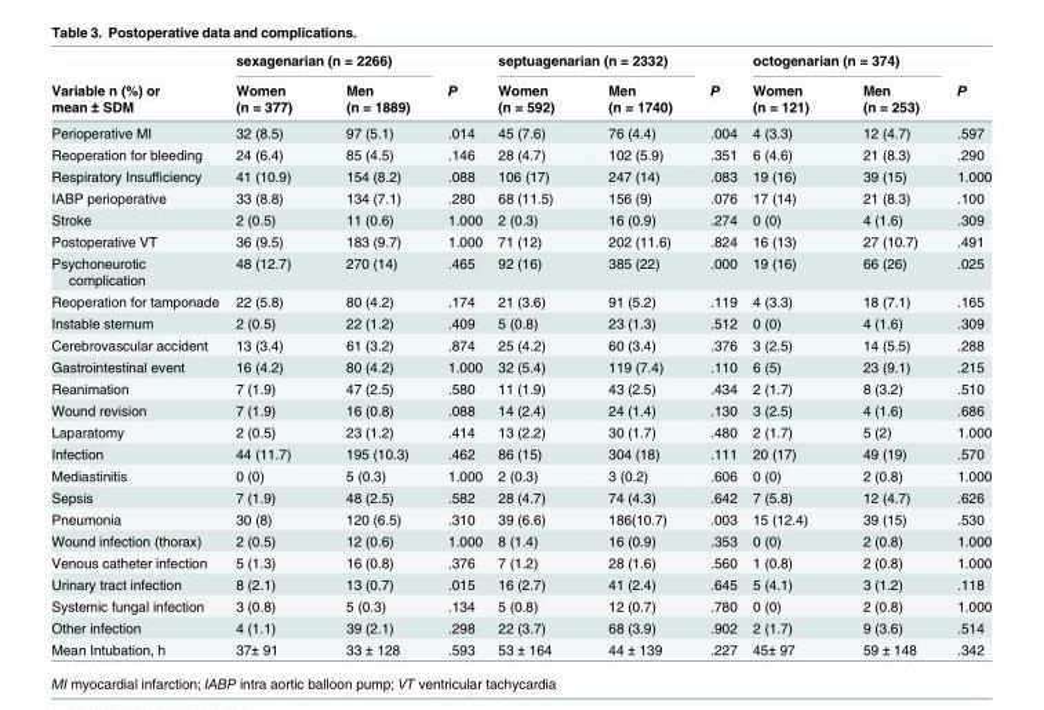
<table><thead><tr><td rowspan="2">Variable n (%) or mean ± SDM</td><td colspan="2">sexagenarian (n = 2266)</td><td rowspan="2">P</td><td colspan="2">septuagenarian (n = 2332)</td><td rowspan="2">P</td><td colspan="2">octogenarian (n = 374)</td><td rowspan="2">P</td></tr><tr><td>Women (n = 377)</td><td>Men (n = 1889)</td><td>Women (n = 592)</td><td>Men (n = 1740)</td><td>Women (n = 121)</td><td>Men (n = 253)</td></tr></thead><tbody><tr><td>Perioperative MI</td><td>32 (8.5)</td><td>97 (5.1)</td><td>.014</td><td>45 (7.6)</td><td>76 (4.4)</td><td>.004</td><td>4 (3.3)</td><td>12 (4.7)</td><td>.597</td></tr><tr><td>Reoperation for bleeding</td><td>24 (6.4)</td><td>85 (4.5)</td><td>.146</td><td>28 (4.7)</td><td>102 (5.9)</td><td>.351</td><td>6 (4.6)</td><td>21 (8.3)</td><td>.290</td></tr><tr><td>Respiratory Insufficiency</td><td>41 (10.9)</td><td>154 (8.2)</td><td>.088</td><td>106 (17)</td><td>247 (14)</td><td>.083</td><td>19 (16)</td><td>39 (15)</td><td>1.000</td></tr><tr><td>IABP perioperative</td><td>33 (8.8)</td><td>134 (7.1)</td><td>.280</td><td>68 (11.5)</td><td>156 (9)</td><td>.076</td><td>17 (14)</td><td>21 (8.3)</td><td>.100</td></tr><tr><td>Stroke</td><td>2 (0.5)</td><td>11 (0.6)</td><td>1.000</td><td>2 (0.3)</td><td>16 (0.9)</td><td>.274</td><td>0 (0)</td><td>4 (1.6)</td><td>.309</td></tr><tr><td>Postoperative VT</td><td>36 (9.5)</td><td>183 (9.7)</td><td>1.000</td><td>71 (12)</td><td>202 (11.6)</td><td>.824</td><td>16 (13)</td><td>27 (10.7)</td><td>.491</td></tr><tr><td>Psychoneurotic complication</td><td>48 (12.7)</td><td>270 (14)</td><td>.465</td><td>92 (16)</td><td>385 (22)</td><td>.000</td><td>19 (16)</td><td>66 (26)</td><td>.025</td></tr><tr><td>Reoperation for tamponade</td><td>22 (5.8)</td><td>80 (4.2)</td><td>.174</td><td>21 (3.6)</td><td>91 (5.2)</td><td>.119</td><td>4 (3.3)</td><td>18 (7.1)</td><td>.165</td></tr><tr><td>Instable sternum</td><td>2 (0.5)</td><td>22 (1.2)</td><td>.409</td><td>5 (0.8)</td><td>23 (1.3)</td><td>.512</td><td>0 (0)</td><td>4 (1.6)</td><td>.309</td></tr><tr><td>Cerebrovascular accident</td><td>13 (3.4)</td><td>61 (3.2)</td><td>.874</td><td>25 (4.2)</td><td>60 (3.4)</td><td>.376</td><td>3 (2.5)</td><td>14 (5.5)</td><td>.288</td></tr><tr><td>Gastrointestinal event</td><td>16 (4.2)</td><td>80 (4.2)</td><td>1.000</td><td>32 (5.4)</td><td>119 (7.4)</td><td>.110</td><td>6 (5)</td><td>23 (9.1)</td><td>.215</td></tr><tr><td>Reanimation</td><td>7 (1.9)</td><td>47 (2.5)</td><td>.580</td><td>11 (1.9)</td><td>43 (2.5)</td><td>.434</td><td>2 (1.7)</td><td>8 (3.2)</td><td>.510</td></tr><tr><td>Wound revision</td><td>7 (1.9)</td><td>16 (0.8)</td><td>.088</td><td>14 (2.4)</td><td>24 (1.4)</td><td>.130</td><td>3 (2.5)</td><td>4 (1.6)</td><td>.686</td></tr><tr><td>Laparatomy</td><td>2 (0.5)</td><td>23 (1.2)</td><td>.414</td><td>13 (2.2)</td><td>30 (1.7)</td><td>.480</td><td>2 (1.7)</td><td>5 (2)</td><td>1.000</td></tr><tr><td>Infection</td><td>44 (11.7)</td><td>195 (10.3)</td><td>.462</td><td>86 (15)</td><td>304 (18)</td><td>.111</td><td>20 (17)</td><td>49 (19)</td><td>.570</td></tr><tr><td>Mediastinitis</td><td>0 (0)</td><td>5 (0.3)</td><td>1.000</td><td>2 (0.3)</td><td>3 (0.2)</td><td>.606</td><td>0 (0)</td><td>2 (0.8)</td><td>1.000</td></tr><tr><td>Sepsis</td><td>7 (1.9)</td><td>48 (2.5)</td><td>.582</td><td>28 (4.7)</td><td>74 (4.3)</td><td>.642</td><td>7 (5.8)</td><td>12 (4.7)</td><td>.626</td></tr><tr><td>Pneumonia</td><td>30 (8)</td><td>120 (6.5)</td><td>.310</td><td>39 (6.6)</td><td>186(10.7)</td><td>.003</td><td>15 (12.4)</td><td>39 (15)</td><td>.530</td></tr><tr><td>Wound infection (thorax)</td><td>2 (0.5)</td><td>12 (0.6)</td><td>1.000</td><td>8 (1.4)</td><td>16 (0.9)</td><td>.353</td><td>0 (0)</td><td>2 (0.8)</td><td>1.000</td></tr><tr><td>Venous catheter infection</td><td>5 (1.3)</td><td>16 (0.8)</td><td>.376</td><td>7 (1.2)</td><td>28 (1.6)</td><td>.560</td><td>1 (0.8)</td><td>2 (0.8)</td><td>1.000</td></tr><tr><td>Urinary tract infection</td><td>8 (2.1)</td><td>13 (0.7)</td><td>.015</td><td>16 (2.7)</td><td>41 (2.4)</td><td>.645</td><td>5 (4.1)</td><td>3 (1.2)</td><td>.118</td></tr><tr><td>Systemic fungal infection</td><td>3 (0.8)</td><td>5 (0.3)</td><td>.134</td><td>5 (0.8)</td><td>12 (0.7)</td><td>.780</td><td>0 (0)</td><td>2 (0.8)</td><td>1.000</td></tr><tr><td>Other infection</td><td>4 (1.1)</td><td>39 (2.1)</td><td>.298</td><td>22 (3.7)</td><td>68 (3.9)</td><td>.902</td><td>2 (1.7)</td><td>9 (3.6)</td><td>.514</td></tr><tr><td>Mean Intubation, h</td><td>37± 91</td><td>33 ± 128</td><td>.593</td><td>53 ± 164</td><td>44 ± 139</td><td>.227</td><td>45± 97</td><td>59 ± 148</td><td>.342</td></tr></tbody></table>